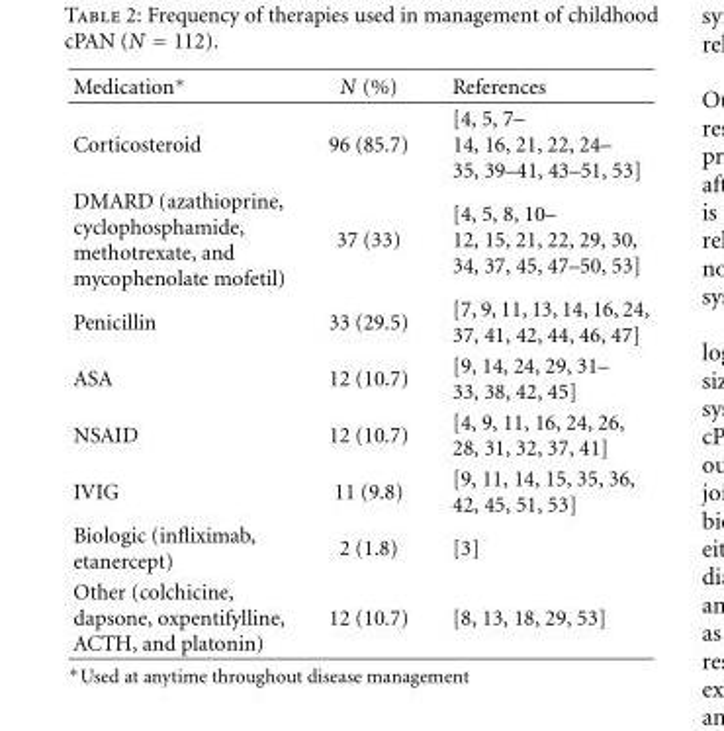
<table><thead><tr><td>Medication∗</td><td>N (%)</td><td>References</td></tr></thead><tbody><tr><td>Corticosteroid</td><td>96 (85.7)</td><td>[4, 5, 7– 14, 16, 21, 22, 24– 35, 39–41, 43–51, 53]</td></tr><tr><td>DMARD (azathioprine, cyclophosphamide, methotrexate, and mycophenolate mofetil)</td><td>37 (33)</td><td>[4, 5, 8, 10– 12, 15, 21, 22, 29, 30, 34, 37, 45, 47–50, 53]</td></tr><tr><td>Penicillin</td><td>33 (29.5)</td><td>[7, 9, 11, 13, 14, 16, 24, 37, 41, 42, 44, 46, 47]</td></tr><tr><td>ASA</td><td>12 (10.7)</td><td>[9, 14, 24, 29, 31– 33, 38, 42, 45]</td></tr><tr><td>NSAID</td><td>12 (10.7)</td><td>[4, 9, 11, 16, 24, 26, 28, 31, 32, 37, 41]</td></tr><tr><td>IVIG</td><td>11 (9.8)</td><td>[9, 11, 14, 15, 35, 36, 42, 45, 51, 53]</td></tr><tr><td>Biologic (infliximab, etanercept)</td><td>2 (1.8)</td><td>[3]</td></tr><tr><td>Other (colchicine, dapsone, oxpentifylline, ACTH, and platonin)</td><td>12 (10.7)</td><td>[8, 13, 18, 29, 53]</td></tr></tbody></table>